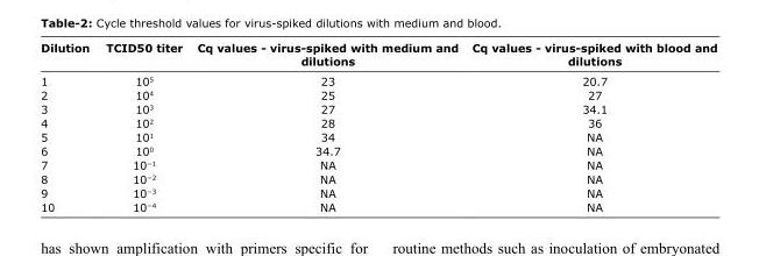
<table><thead><tr><td>Dilution</td><td>TCID50 titer</td><td>Cq values - virus-spiked with medium and dilutions</td><td>Cq values - virus-spiked with blood and dilutions</td></tr></thead><tbody><tr><td>1</td><td>10<sup>5</sup></td><td>23</td><td>20.7</td></tr><tr><td>2</td><td>10<sup>4</sup></td><td>25</td><td>27</td></tr><tr><td>3</td><td>10<sup>3</sup></td><td>27</td><td>34.1</td></tr><tr><td>4</td><td>10<sup>2</sup></td><td>28</td><td>36</td></tr><tr><td>5</td><td>10<sup>1</sup></td><td>34</td><td>NA</td></tr><tr><td>6</td><td>10<sup>0</sup></td><td>34.7</td><td>NA</td></tr><tr><td>7</td><td>10<sup>−1</sup></td><td>NA</td><td>NA</td></tr><tr><td>8</td><td>10<sup>−2</sup></td><td>NA</td><td>NA</td></tr><tr><td>9</td><td>10<sup>−3</sup></td><td>NA</td><td>NA</td></tr><tr><td>10</td><td>10<sup>−4</sup></td><td>NA</td><td>NA</td></tr></tbody></table>